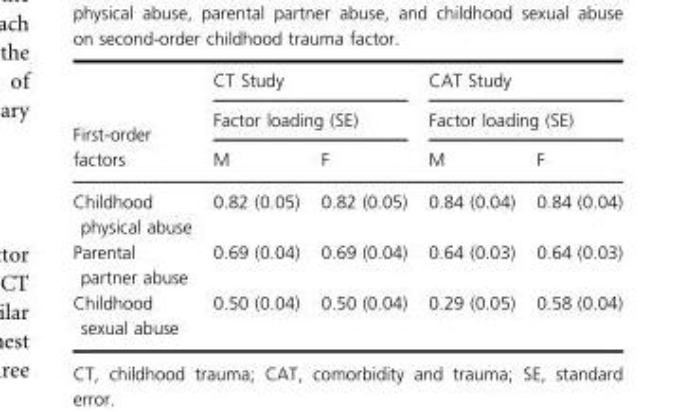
<table><thead><tr><td rowspan="3">First-order factors</td><td rowspan="2" colspan="2">CT Study Factor loading (SE)</td><td rowspan="2" colspan="2">CAT Study Factor loading (SE)</td></tr><tr></tr><tr><td>M</td><td>F</td><td>M</td><td>F</td></tr></thead><tbody><tr><td>Childhood physical abuse</td><td>0.82 (0.05)</td><td>0.82 (0.05)</td><td>0.84 (0.04)</td><td>0.84 (0.04)</td></tr><tr><td>Parental partner abuse</td><td>0.69 (0.04)</td><td>0.69 (0.04)</td><td>0.64 (0.03)</td><td>0.64 (0.03)</td></tr><tr><td>Childhood sexual abuse</td><td>0.50 (0.04)</td><td>0.50 (0.04)</td><td>0.29 (0.05)</td><td>0.58 (0.04)</td></tr></tbody></table>